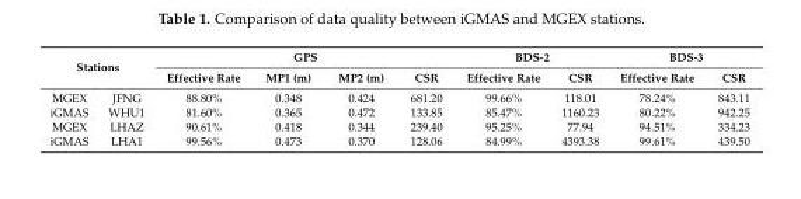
<table><thead><tr><td rowspan="2" colspan="2">Stations</td><td colspan="4">GPS</td><td colspan="2">BDS-2</td><td colspan="2">BDS-3</td></tr><tr><td rowspan="2">Effective Rate 88.80%</td><td rowspan="2">MP1 (m) 0.348</td><td rowspan="2">MP2 (m) 0.424</td><td rowspan="2">CSR 681.20</td><td rowspan="2">Effective Rate 99.66%</td><td rowspan="2">CSR 118.01</td><td rowspan="2">Effective Rate 78.24%</td><td rowspan="2">CSR 843.11</td></tr><tr><td>MGEX</td><td>JFNG</td></tr></thead><tbody><tr><td>iGMAS</td><td>WHU1</td><td>81.60%</td><td>0.365</td><td>0.472</td><td>133.85</td><td>85.47%</td><td>1160.23</td><td>80.22%</td><td>942.25</td></tr><tr><td>MGEX</td><td>LHAZ</td><td>90.61%</td><td>0.418</td><td>0.344</td><td>239.40</td><td>95.25%</td><td>77.94</td><td>94.51%</td><td>334.23</td></tr><tr><td>iGMAS</td><td>LHA1</td><td>99.56%</td><td>0.473</td><td>0.370</td><td>128.06</td><td>84.99%</td><td>4393.38</td><td>99.61%</td><td>439.50</td></tr></tbody></table>